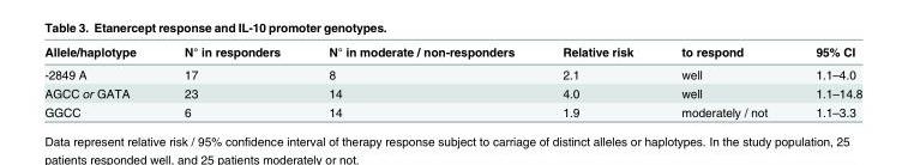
<table><thead><tr><td>Allele/haplotype</td><td>N° in responders</td><td>N° in moderate / non-responders</td><td>Relative risk</td><td>to respond</td><td>95% CI</td></tr></thead><tbody><tr><td>-2849 A</td><td>17</td><td>8</td><td>2.1</td><td>well</td><td>1.1–4.0</td></tr><tr><td>AGCC or GATA</td><td>23</td><td>14</td><td>4.0</td><td>well</td><td>1.1–14.8</td></tr><tr><td>GGCC</td><td>6</td><td>14</td><td>1.9</td><td>moderately / not</td><td>1.1–3.3</td></tr></tbody></table>